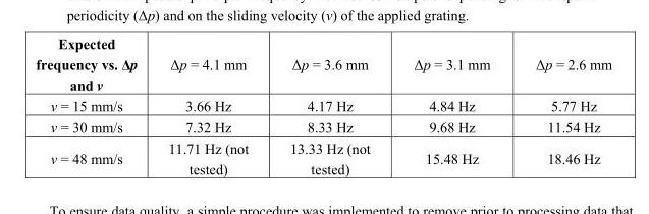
<table><thead><tr><td>Expected frequency vs. Δp and v</td><td>Δp = 4.1 mm</td><td>Δp = 3.6 mm</td><td>Δp = 3.1 mm</td><td>Δp = 2.6 mm</td></tr></thead><tbody><tr><td>v = 15 mm/s</td><td>3.66 Hz</td><td>4.17 Hz</td><td>4.84 Hz</td><td>5.77 Hz</td></tr><tr><td>v = 30 mm/s</td><td>7.32 Hz</td><td>8.33 Hz</td><td>9.68 Hz</td><td>11.54 Hz</td></tr><tr><td>v = 48 mm/s</td><td>11.71 Hz (not tested)</td><td>13.33 Hz (not tested)</td><td>15.48 Hz</td><td>18.46 Hz</td></tr></tbody></table>